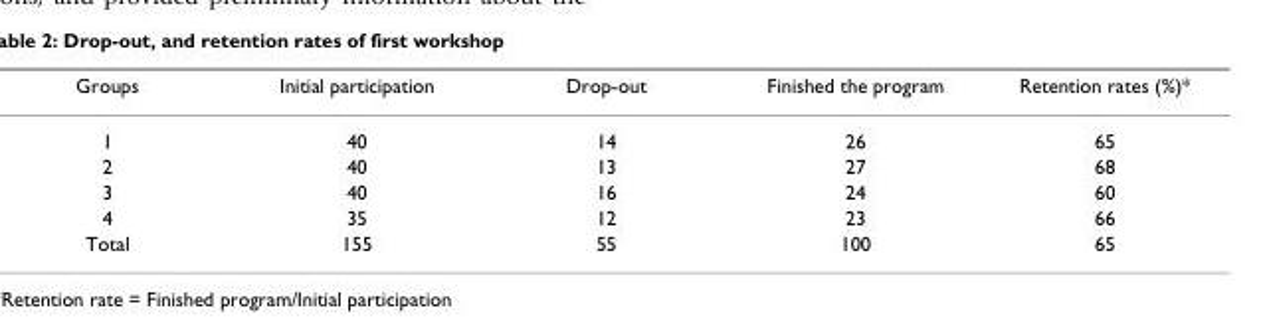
<table><thead><tr><td>Groups</td><td>Initial participation</td><td>Drop-out</td><td>Finished the program</td><td>Retention rates (%)*</td></tr></thead><tbody><tr><td>1</td><td>40</td><td>14</td><td>26</td><td>65</td></tr><tr><td>2</td><td>40</td><td>13</td><td>27</td><td>68</td></tr><tr><td>3</td><td>40</td><td>16</td><td>24</td><td>60</td></tr><tr><td>4</td><td>35</td><td>12</td><td>23</td><td>66</td></tr><tr><td>Total</td><td>155</td><td>55</td><td>100</td><td>65</td></tr></tbody></table>